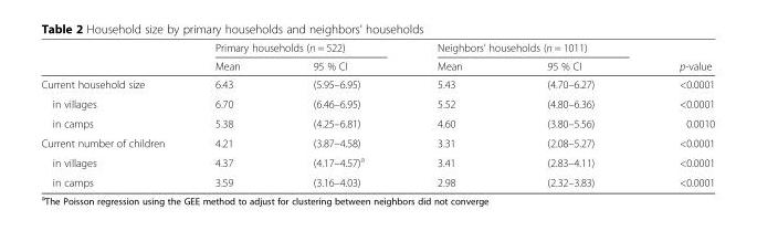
<table><thead><tr><td rowspan="2"></td><td colspan="2">Primary households (n = 522)</td><td colspan="2">Neighbors’ households (n = 1011)</td><td rowspan="2">p-value</td></tr><tr><td>Mean</td><td>95 % CI</td><td>Mean</td><td>95 % CI</td></tr></thead><tbody><tr><td>Current household size</td><td>6.43</td><td>(5.95–6.95)</td><td>5.43</td><td>(4.70–6.27)</td><td>&lt;0.0001</td></tr><tr><td>in villages</td><td>6.70</td><td>(6.46–6.95)</td><td>5.52</td><td>(4.80–6.36)</td><td>&lt;0.0001</td></tr><tr><td>in camps</td><td>5.38</td><td>(4.25–6.81)</td><td>4.60</td><td>(3.80–5.56)</td><td>0.0010</td></tr><tr><td>Current number of children</td><td>4.21</td><td>(3.87–4.58)</td><td>3.31</td><td>(2.08–5.27)</td><td>&lt;0.0001</td></tr><tr><td>in villages</td><td>4.37</td><td>(4.17–4.57)<sup>a</sup></td><td>3.41</td><td>(2.83–4.11)</td><td>&lt;0.0001</td></tr><tr><td>in camps</td><td>3.59</td><td>(3.16–4.03)</td><td>2.98</td><td>(2.32–3.83)</td><td>&lt;0.0001</td></tr></tbody></table>